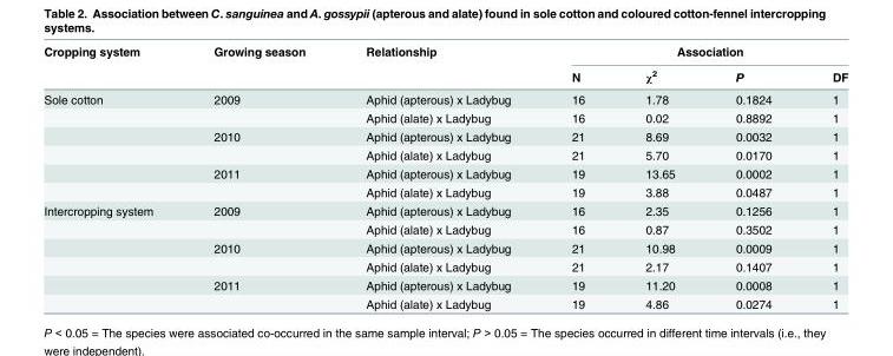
<table><thead><tr><td rowspan="2">Cropping system</td><td rowspan="2">Growing season</td><td rowspan="2">Relationship</td><td colspan="4">Association</td></tr><tr><td>N</td><td>χ<sup>2</sup></td><td>P</td><td>DF</td></tr></thead><tbody><tr><td rowspan="6">Sole cotton</td><td>2009</td><td>Aphid (apterous) x Ladybug</td><td>16</td><td>1.78</td><td>0.1824</td><td>1</td></tr><tr><td></td><td>Aphid (alate) x Ladybug</td><td>16</td><td>0.02</td><td>0.8892</td><td>1</td></tr><tr><td>2010</td><td>Aphid (apterous) x Ladybug</td><td>21</td><td>8.69</td><td>0.0032</td><td>1</td></tr><tr><td></td><td>Aphid (alate) x Ladybug</td><td>21</td><td>5.70</td><td>0.0170</td><td>1</td></tr><tr><td>2011</td><td>Aphid (apterous) x Ladybug</td><td>19</td><td>13.65</td><td>0.0002</td><td>1</td></tr><tr><td></td><td>Aphid (alate) x Ladybug</td><td>19</td><td>3.88</td><td>0.0487</td><td>1</td></tr><tr><td rowspan="6">Intercropping system</td><td>2009</td><td>Aphid (apterous) x Ladybug</td><td>16</td><td>2.35</td><td>0.1256</td><td>1</td></tr><tr><td></td><td>Aphid (alate) x Ladybug</td><td>16</td><td>0.87</td><td>0.3502</td><td>1</td></tr><tr><td>2010</td><td>Aphid (apterous) x Ladybug</td><td>21</td><td>10.98</td><td>0.0009</td><td>1</td></tr><tr><td></td><td>Aphid (alate) x Ladybug</td><td>21</td><td>2.17</td><td>0.1407</td><td>1</td></tr><tr><td>2011</td><td>Aphid (apterous) x Ladybug</td><td>19</td><td>11.20</td><td>0.0008</td><td>1</td></tr><tr><td></td><td>Aphid (alate) x Ladybug</td><td>19</td><td>4.86</td><td>0.0274</td><td>1</td></tr></tbody></table>